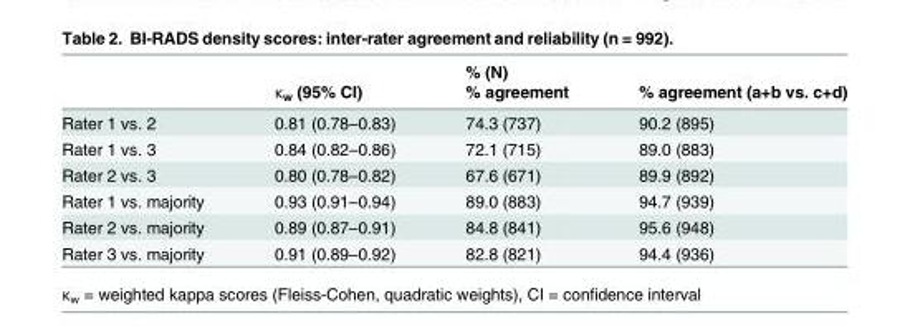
<table><thead><tr><td rowspan="2"></td><td rowspan="2">ᴋ<sub>w</sub> (95% CI)</td><td rowspan="2">% (N) % agreement</td><td rowspan="2">% agreement (a+b vs. c+d)</td></tr><tr></tr></thead><tbody><tr><td>Rater 1 vs. 2</td><td>0.81 (0.78–0.83)</td><td>74.3 (737)</td><td>90.2 (895)</td></tr><tr><td>Rater 1 vs. 3</td><td>0.84 (0.82–0.86)</td><td>72.1 (715)</td><td>89.0 (883)</td></tr><tr><td>Rater 2 vs. 3</td><td>0.80 (0.78–0.82)</td><td>67.6 (671)</td><td>89.9 (892)</td></tr><tr><td>Rater 1 vs. majority</td><td>0.93 (0.91–0.94)</td><td>89.0 (883)</td><td>94.7 (939)</td></tr><tr><td>Rater 2 vs. majority</td><td>0.89 (0.87–0.91)</td><td>84.8 (841)</td><td>95.6 (948)</td></tr><tr><td>Rater 3 vs. majority</td><td>0.91 (0.89–0.92)</td><td>82.8 (821)</td><td>94.4 (936)</td></tr></tbody></table>